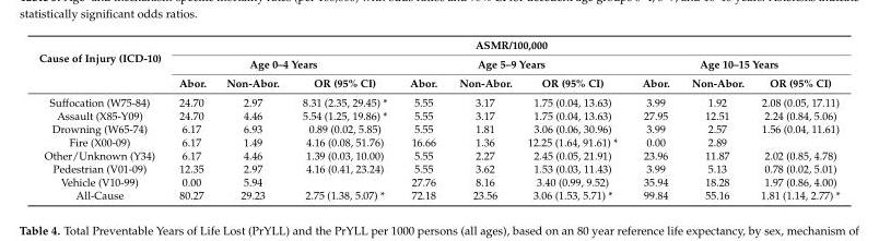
<table><thead><tr><td rowspan="3">Cause of Injury (ICD-10)</td><td colspan="9">ASMR/100,000</td></tr><tr><td colspan="3">Age 0–4 Years</td><td colspan="3">Age 5–9 Years</td><td colspan="3">Age 10–15 Years</td></tr><tr><td>Abor.</td><td>Non-Abor.</td><td>OR (95% CI)</td><td>Abor.</td><td>Non-Abor.</td><td>OR (95% CI)</td><td>Abor.</td><td>Non-Abor.</td><td>OR (95% CI)</td></tr></thead><tbody><tr><td>Suffocation (W75-84)</td><td>24.70</td><td>2.97</td><td>8.31 (2.35, 29.45) *</td><td>5.55</td><td>3.17</td><td>1.75 (0.04, 13.63)</td><td>3.99</td><td>1.92</td><td>2.08 (0.05, 17.11)</td></tr><tr><td>Assault (X85-Y09)</td><td>24.70</td><td>4.46</td><td>5.54 (1.25, 19.86) *</td><td>5.55</td><td>3.17</td><td>1.75 (0.04, 13.63)</td><td>27.95</td><td>12.51</td><td>2.24 (0.84, 5.06)</td></tr><tr><td>Drowning (W65-74)</td><td>6.17</td><td>6.93</td><td>0.89 (0.02, 5.85)</td><td>5.55</td><td>1.81</td><td>3.06 (0.06, 30.96)</td><td>3.99</td><td>2.57</td><td>1.56 (0.04, 11.61)</td></tr><tr><td>Fire (X00-09)</td><td>6.17</td><td>1.49</td><td>4.16 (0.08, 51.76)</td><td>16.66</td><td>1.36</td><td>12.25 (1.64, 91.61) *</td><td>0.00</td><td>2.89</td><td></td></tr><tr><td>Other/Unknown (Y34)</td><td>6.17</td><td>4.46</td><td>1.39 (0.03, 10.00)</td><td>5.55</td><td>2.27</td><td>2.45 (0.05, 21.91)</td><td>23.96</td><td>11.87</td><td>2.02 (0.85, 4.78)</td></tr><tr><td>Pedestrian (V01-09)</td><td>12.35</td><td>2.97</td><td>4.16 (0.41, 23.24)</td><td>5.55</td><td>3.62</td><td>1.53 (0.03, 11.43)</td><td>3.99</td><td>5.13</td><td>0.78 (0.02, 5.01)</td></tr><tr><td>Vehicle (V10-99)</td><td>0.00</td><td>5.94</td><td></td><td>27.76</td><td>8.16</td><td>3.40 (0.99, 9.52)</td><td>35.94</td><td>18.28</td><td>1.97 (0.86, 4.00)</td></tr><tr><td>All-Cause</td><td>80.27</td><td>29.23</td><td>2.75 (1.38, 5.07) *</td><td>72.18</td><td>23.56</td><td>3.06 (1.53, 5.71) *</td><td>99.84</td><td>55.16</td><td>1.81 (1.14, 2.77) *</td></tr></tbody></table>